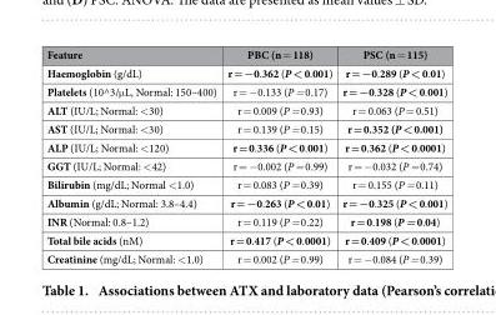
<table><thead><tr><td>Feature</td><td>PBC (n = 118)</td><td>PSC (n = 115)</td></tr></thead><tbody><tr><td>Haemoglobin (g/dL)</td><td>r = −0.362 (P &lt; 0.001)</td><td>r = −0.289 (P &lt; 0.01)</td></tr><tr><td>Platelets (10^3/μ L, Normal: 150–400)</td><td>r = − 0.133 (P = 0.17)</td><td>r = −0.328 (P &lt; 0.001)</td></tr><tr><td>ALT (IU/L; Normal: &lt; 30)</td><td>r = 0.009 (P = 0.93)</td><td>r = 0.063 (P = 0.51)</td></tr><tr><td>AST (IU/L; Normal: &lt; 30)</td><td>r = 0.139 (P = 0.15)</td><td>r = 0.352 (P &lt; 0.001)</td></tr><tr><td>ALP (IU/L; Normal: &lt; 120)</td><td>r = 0.336 (P &lt; 0.001)</td><td>r = 0.362 (P &lt; 0.0001)</td></tr><tr><td>GGT (IU/L; Normal: &lt; 42)</td><td>r = − 0.002 (P = 0.99)</td><td>r = − 0.032 (P = 0.74)</td></tr><tr><td>Bilirubin (mg/dL; Normal &lt; 1.0)</td><td>r = 0.083 (P = 0.39)</td><td>r = 0.155 (P = 0.11)</td></tr><tr><td>Albumin (g/dL; Normal: 3.8–4.4)</td><td>r = −0.263 (P &lt; 0.01)</td><td>r = −0.325 (P &lt; 0.001)</td></tr><tr><td>INR (Normal: 0.8–1.2)</td><td>r = 0.119 (P = 0.22)</td><td>r = 0.198 (P = 0.04)</td></tr><tr><td>Total bile acids (nM)</td><td>r = 0.417 (P &lt; 0.0001)</td><td>r = 0.409 (P &lt; 0.0001)</td></tr><tr><td>Creatinine (mg/dL; Normal: &lt; 1.0)</td><td>r = 0.002 (P = 0.99)</td><td>r = − 0.084 (P = 0.39)</td></tr></tbody></table>